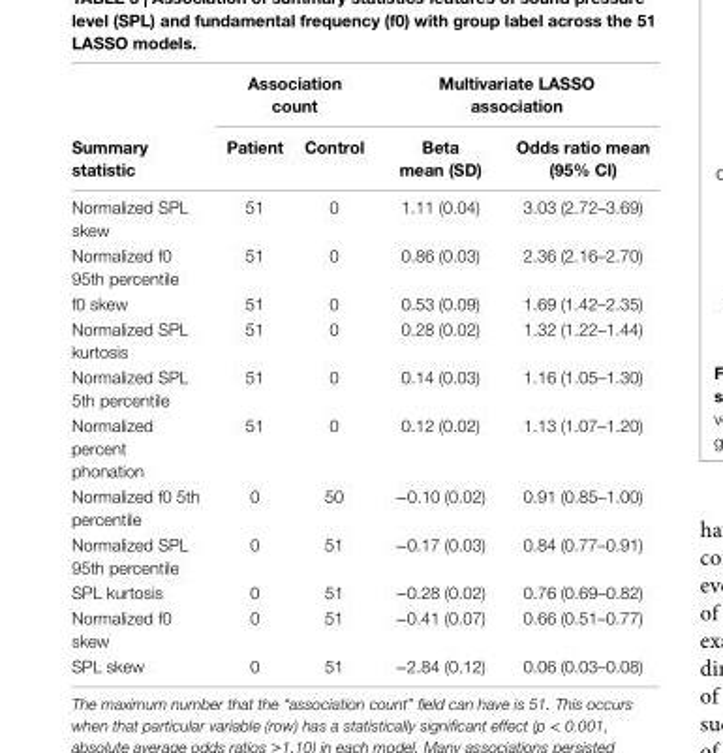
<table><thead><tr><td rowspan="2">summary statistic</td><td colspan="2">association count</td><td colspan="2">Multivariate lassO association</td></tr><tr><td>Patient</td><td>control</td><td>Beta mean (sD)</td><td>Odds ratio mean (95% ci)</td></tr></thead><tbody><tr><td>Normalized SPL skew</td><td>51</td><td>0</td><td>1.11 (0.04)</td><td>3.03 (2.72–3.69)</td></tr><tr><td>Normalized f0 95th percentile</td><td>51</td><td>0</td><td>0.86 (0.03)</td><td>2.36 (2.16–2.70)</td></tr><tr><td>f0 skew</td><td>51</td><td>0</td><td>0.53 (0.09)</td><td>1.69 (1.42–2.35)</td></tr><tr><td>Normalized SPL kurtosis</td><td>51</td><td>0</td><td>0.28 (0.02)</td><td>1.32 (1.22–1.44)</td></tr><tr><td>Normalized SPL 5th percentile</td><td>51</td><td>0</td><td>0.14 (0.03)</td><td>1.16 (1.05–1.30)</td></tr><tr><td>Normalized percent phonation</td><td>51</td><td>0</td><td>0.12 (0.02)</td><td>1.13 (1.07–1.20)</td></tr><tr><td>Normalized f0 5th percentile</td><td>0</td><td>50</td><td>−0.10 (0.02)</td><td>0.91 (0.85–1.00)</td></tr><tr><td>Normalized SPL 95th percentile</td><td>0</td><td>51</td><td>−0.17 (0.03)</td><td>0.84 (0.77–0.91)</td></tr><tr><td>SPL kurtosis</td><td>0</td><td>51</td><td>−0.28 (0.02)</td><td>0.76 (0.69–0.82)</td></tr><tr><td>Normalized f0 skew</td><td>0</td><td>51</td><td>−0.41 (0.07)</td><td>0.66 (0.51–0.77)</td></tr><tr><td>SPL skew</td><td>0</td><td>51</td><td>−2.84 (0.12)</td><td>0.06 (0.03–0.08)</td></tr></tbody></table>